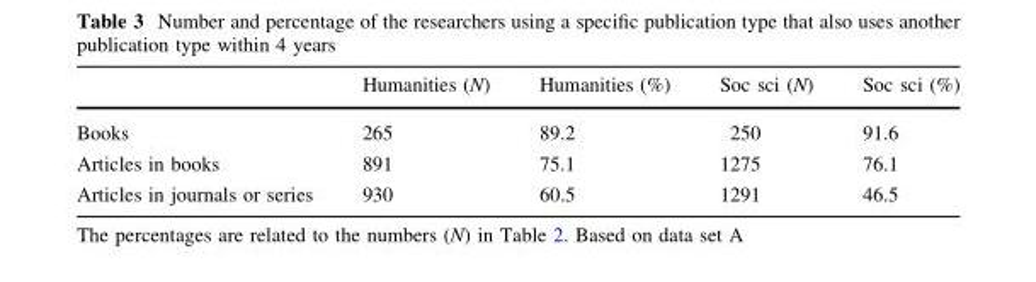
<table><thead><tr><td></td><td>Humanities (N)</td><td>Humanities (%)</td><td>Soc sci (N)</td><td>Soc sci (%)</td></tr></thead><tbody><tr><td>Books</td><td>265</td><td>89.2</td><td>250</td><td>91.6</td></tr><tr><td>Articles in books</td><td>891</td><td>75.1</td><td>1275</td><td>76.1</td></tr><tr><td>Articles in journals or series</td><td>930</td><td>60.5</td><td>1291</td><td>46.5</td></tr></tbody></table>